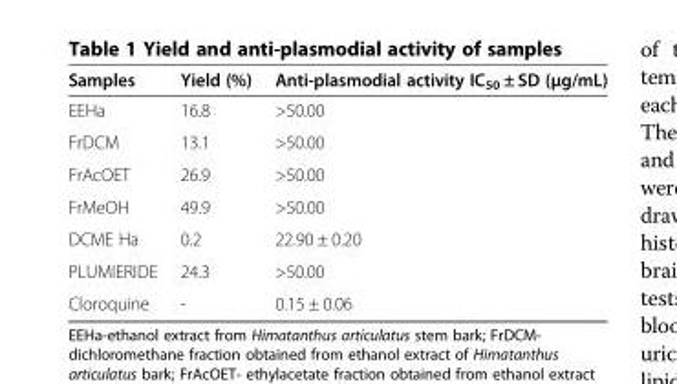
<table><thead><tr><td>Samples</td><td>Yield (%)</td><td>Anti-plasmodial activity IC<sub>50</sub> ± SD (μg/mL)</td></tr></thead><tbody><tr><td>EEHa</td><td>16.8</td><td>&gt;50.00</td></tr><tr><td>FrDCM</td><td>13.1</td><td>&gt;50.00</td></tr><tr><td>FrAcOET</td><td>26.9</td><td>&gt;50.00</td></tr><tr><td>FrMeOH</td><td>49.9</td><td>&gt;50.00</td></tr><tr><td>DCME Ha</td><td>0.2</td><td>22.90 ± 0.20</td></tr><tr><td>PLUMIERIDE</td><td>24.3</td><td>&gt;50.00</td></tr><tr><td>Cloroquine</td><td>-</td><td>0.15 ± 0.06</td></tr></tbody></table>